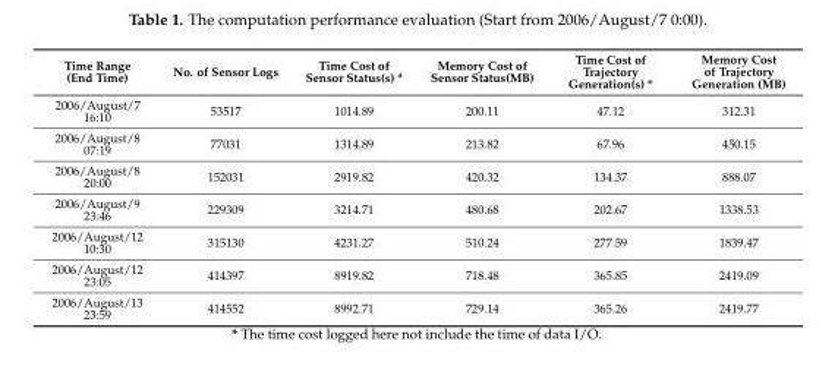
<table><thead><tr><td>Time Range (End Time)</td><td>No. of Sensor Logs</td><td>Time Cost of Sensor Status(s) *</td><td>Memory Cost of Sensor Status(MB)</td><td>Time Cost of Trajectory Generation(s) *</td><td>Memory Cost of Trajectory Generation (MB)</td></tr></thead><tbody><tr><td>2006/August/7 16:10</td><td>53517</td><td>1014.89</td><td>200.11</td><td>47.12</td><td>312.31</td></tr><tr><td>2006/August/8 07:19</td><td>77031</td><td>1314.89</td><td>213.82</td><td>67.96</td><td>450.15</td></tr><tr><td>2006/August/8 20:00</td><td>152031</td><td>2919.82</td><td>420.32</td><td>134.37</td><td>888.07</td></tr><tr><td>2006/August/9 23:46</td><td>229309</td><td>3214.71</td><td>480.68</td><td>202.67</td><td>1338.53</td></tr><tr><td>2006/August/12 10:30</td><td>315130</td><td>4231.27</td><td>510.24</td><td>277.59</td><td>1839.47</td></tr><tr><td>2006/August/12 23:05</td><td>414397</td><td>8919.82</td><td>718.48</td><td>365.85</td><td>2419.09</td></tr><tr><td>2006/August/13 23:59</td><td>414552</td><td>8992.71</td><td>729.14</td><td>365.26</td><td>2419.77</td></tr></tbody></table>